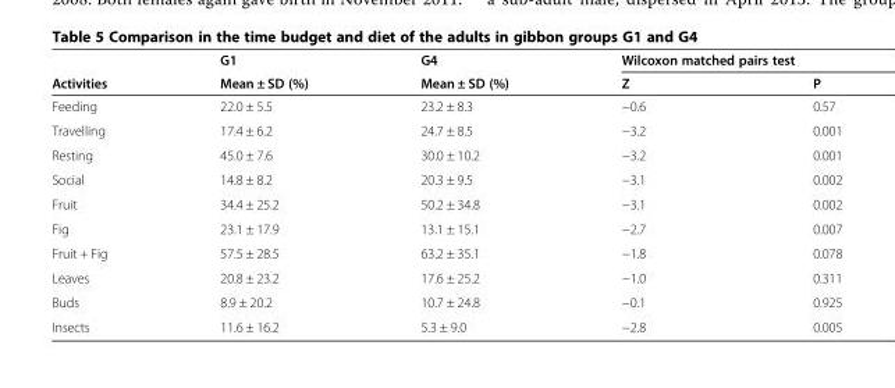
<table><thead><tr><td rowspan="2">Activities</td><td rowspan="2">G1 Mean ± SD (%)</td><td rowspan="2">G4 Mean ± SD (%)</td><td colspan="2">Wilcoxon matched pairs test</td></tr><tr><td>Z</td><td>P</td></tr></thead><tbody><tr><td>Feeding</td><td>22.0 ± 5.5</td><td>23.2 ± 8.3</td><td>−0.6</td><td>0.57</td></tr><tr><td>Travelling</td><td>17.4 ± 6.2</td><td>24.7 ± 8.5</td><td>−3.2</td><td>0.001</td></tr><tr><td>Resting</td><td>45.0 ± 7.6</td><td>30.0 ± 10.2</td><td>−3.2</td><td>0.001</td></tr><tr><td>Social</td><td>14.8 ± 8.2</td><td>20.3 ± 9.5</td><td>−3.1</td><td>0.002</td></tr><tr><td>Fruit</td><td>34.4 ± 25.2</td><td>50.2 ± 34.8</td><td>−3.1</td><td>0.002</td></tr><tr><td>Fig</td><td>23.1 ± 17.9</td><td>13.1 ± 15.1</td><td>−2.7</td><td>0.007</td></tr><tr><td>Fruit + Fig</td><td>57.5 ± 28.5</td><td>63.2 ± 35.1</td><td>−1.8</td><td>0.078</td></tr><tr><td>Leaves</td><td>20.8 ± 23.2</td><td>17.6 ± 25.2</td><td>−1.0</td><td>0.311</td></tr><tr><td>Buds</td><td>8.9 ± 20.2</td><td>10.7 ± 24.8</td><td>−0.1</td><td>0.925</td></tr><tr><td>Insects</td><td>11.6 ± 16.2</td><td>5.3 ± 9.0</td><td>−2.8</td><td>0.005</td></tr></tbody></table>